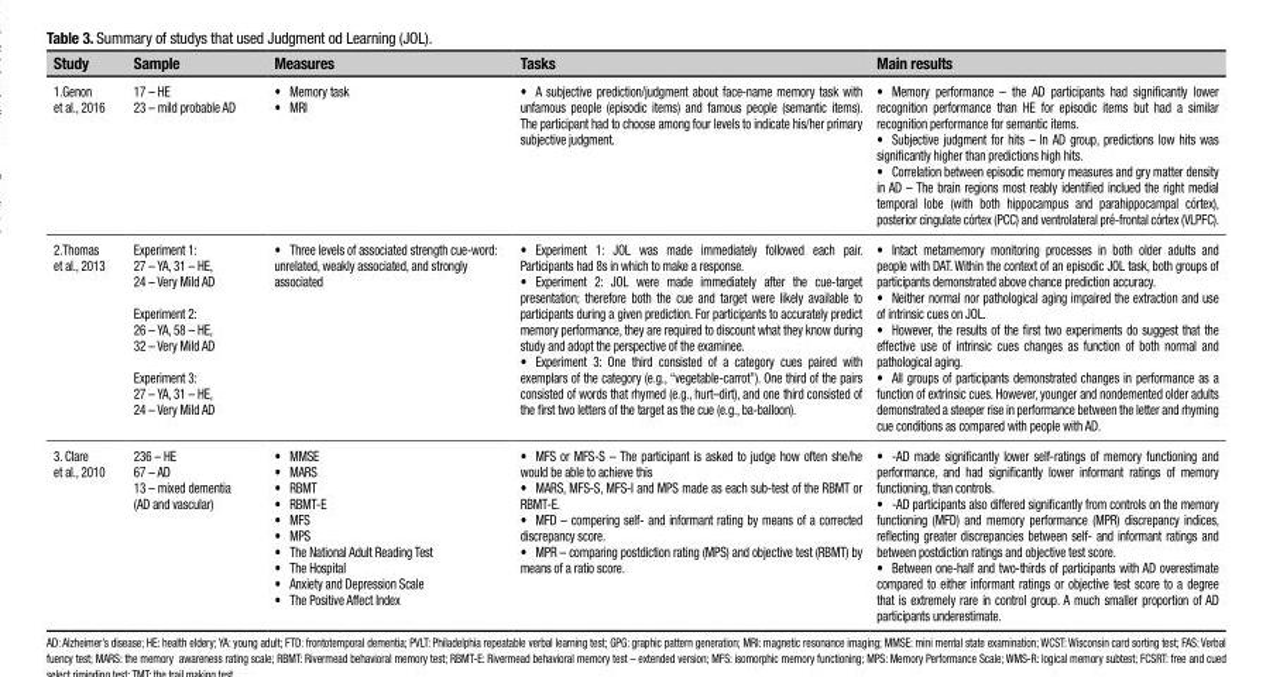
<table><thead><tr><td>Study</td><td>Sample</td><td>Measures</td><td>Tasks</td><td>Main results</td></tr></thead><tbody><tr><td>1.Genon et al., 2016</td><td>17 – HE 23 – mild probable AD</td><td>• Memory task • MRI</td><td>• A subjective prediction/judgment about face-name memory task with unfamous people (episodic items) and famous people (semantic items). The participant had to choose among four levels to indicate his/her primary subjective judgment.</td><td>• Memory performance – the AD participants had significantly lower recognition performance than HE for episodic items but had a similar recognition performance for semantic items. • Subjective judgment for hits – In AD group, predictions low hits was significantly higher than predictions high hits. • Correlation between episodic memory measures and gry matter density in AD – The brain regions most reably identified inclued the right medial temporal lobe (with both hippocampus and parahippocampal córtex), posterior cingulate córtex (PCC) and ventrolateral pré-frontal córtex (VLPFC).</td></tr><tr><td>2.Thomas et al., 2013</td><td>Experiment 1: 27 – YA, 31 – HE, 24 – Very Mild AD Experiment 2: 26 – YA, 58 – HE, 32 – Very Mild AD Experiment 3: 27 – YA, 31 – HE, 24 – Very Mild AD</td><td>• Three levels of associated strength cue-word: unrelated, weakly associated, and strongly associated</td><td>• Experiment 1: JOL was made immediately followed each pair. Participants had 8s in which to make a response. • Experiment 2: JOL were made immediately after the cue-target presentation; therefore both the cue and target were likely available to participants during a given prediction. For participants to accurately predict memory performance, they are required to discount what they know during study and adopt the perspective of the examinee. • Experiment 3: One third consisted of a category cues paired with exemplars of the category (e.g., “vegetable-carrot”). One third of the pairs consisted of words that rhymed (e.g., hurt–dirt), and one third consisted of the first two letters of the target as the cue (e.g., ba-balloon).</td><td>• Intact metamemory monitoring processes in both older adults and people with DAT. Within the context of an episodic JOL task, both groups of participants demonstrated above chance prediction accuracy. • Neither normal nor pathological aging impaired the extraction and use of intrinsic cues on JOL. • However, the results of the first two experiments do suggest that the effective use of intrinsic cues changes as function of both normal and pathological aging. • All groups of participants demonstrated changes in performance as a function of extrinsic cues. However, younger and nondemented older adults demonstrated a steeper rise in performance between the letter and rhyming cue conditions as compared with people with AD.</td></tr><tr><td>3. Clare et al., 2010</td><td>236 – HE 67 – AD 13 – mixed dementia (AD and vascular)</td><td>• MMSE • MARS • RBMT • RBMT-E • MFS • MPS • The National Adult Reading Test • The Hospital • Anxiety and Depression Scale • The Positive Affect Index</td><td>• MFS or MFS-S – The participant is asked to judge how often she/he would be able to achieve this • MARS, MFS-S, MFS-I and MPS made as each sub-test of the RBMT or RBMT-E. • MFD – compering self- and informant rating by means of a corrected discrepancy score. • MPR – comparing postdiction rating (MPS) and objective test (RBMT) by means of a ratio score.</td><td>• -AD made significantly lower self-ratings of memory functioning and performance, and had significantly lower informant ratings of memory functioning, than controls. • -AD participants also differed significantly from controls on the memory functioning (MFD) and memory performance (MPR) discrepancy indices, reflecting greater discrepancies between self- and informant ratings and between postdiction ratings and objective test score. • Between one-half and two-thirds of participants with AD overestimate compared to either informant ratings or objective test score to a degree that is extremely rare in control group. A much smaller proportion of AD participants underestimate.</td></tr></tbody></table>